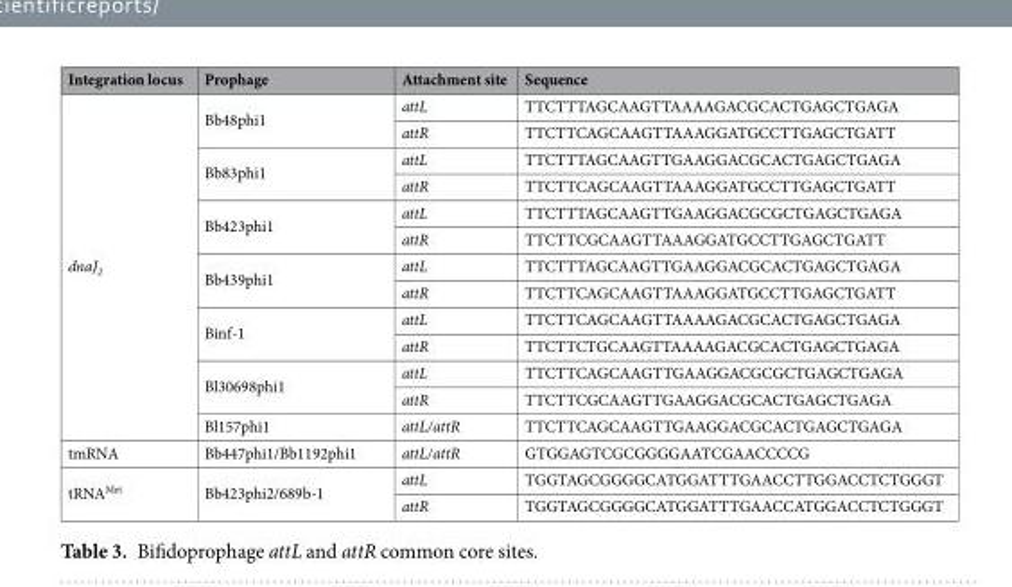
<table><thead><tr><td>Integration locus</td><td>Prophage</td><td>Attachment site</td><td>Sequence</td></tr></thead><tbody><tr><td rowspan="13">dnaJ<sub>2</sub></td><td rowspan="2">Bb48phi1</td><td>attL</td><td>TTCTTTAGCAAGTTAAAAGACGCACTGAGCTGAGA</td></tr><tr><td>attR</td><td>TTCTTCAGCAAGTTAAAGGATGCCTTGAGCTGATT</td></tr><tr><td rowspan="2">Bb83phi1</td><td>attL</td><td>TTCTTTAGCAAGTTGAAGGACGCACTGAGCTGAGA</td></tr><tr><td>attR</td><td>TTCTTCAGCAAGTTAAAGGATGCCTTGAGCTGATT</td></tr><tr><td rowspan="2">Bb423phi1</td><td>attL</td><td>TTCTTTAGCAAGTTGAAGGACGCGCTGAGCTGAGA</td></tr><tr><td>attR</td><td>TTCTTCGCAAGTTAAAGGATGCCTTGAGCTGATT</td></tr><tr><td rowspan="2">Bb439phi1</td><td>attL</td><td>TTCTTTAGCAAGTTGAAGGACGCACTGAGCTGAGA</td></tr><tr><td>attR</td><td>TTCTTCAGCAAGTTAAAGGATGCCTTGAGCTGATT</td></tr><tr><td rowspan="2">Binf-1</td><td>attL</td><td>TTCTTCAGCAAGTTAAAAGACGCACTGAGCTGAGA</td></tr><tr><td>attR</td><td>TTCTTCTGCAAGTTAAAAGACGCACTGAGCTGAGA</td></tr><tr><td rowspan="2">Bl30698phi1</td><td>attL</td><td>TTCTTCAGCAAGTTGAAGGACGCGCTGAGCTGAGA</td></tr><tr><td>attR</td><td>TTCTTCGCAAGTTGAAGGACGCACTGAGCTGAGA</td></tr><tr><td>Bl157phi1</td><td>attL/attR</td><td>TTCTTCAGCAAGTTGAAGGACGCACTGAGCTGAGA</td></tr><tr><td>tmRNA</td><td>Bb447phi1/Bb1192phi1</td><td>attL/attR</td><td>GTGGAGTCGCGGGGAATCGAACCCCG</td></tr><tr><td rowspan="2">tRNA<sup>Met</sup></td><td rowspan="2">Bb423phi2/689b-1</td><td>attL</td><td>TGGTAGCGGGGCATGGATTTGAACCTTGGACCTCTGGGT</td></tr><tr><td>attR</td><td>TGGTAGCGGGGCATGGATTTGAACCATGGACCTCTGGGT</td></tr></tbody></table>